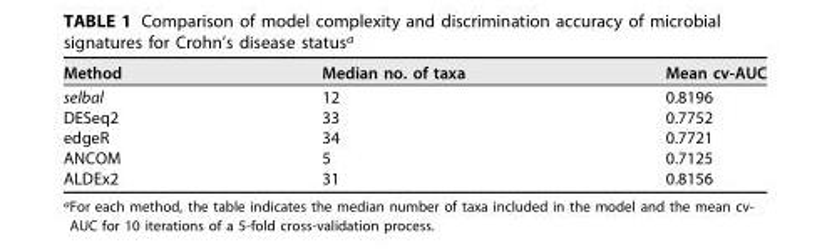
<table><thead><tr><td>Method</td><td>Median no. of taxa</td><td>Mean cv-AUC</td></tr></thead><tbody><tr><td>selbal</td><td>12</td><td>0.8196</td></tr><tr><td>DESeq2</td><td>33</td><td>0.7752</td></tr><tr><td>edgeR</td><td>34</td><td>0.7721</td></tr><tr><td>ANCOM</td><td>5</td><td>0.7125</td></tr><tr><td>ALDEx2</td><td>31</td><td>0.8156</td></tr></tbody></table>